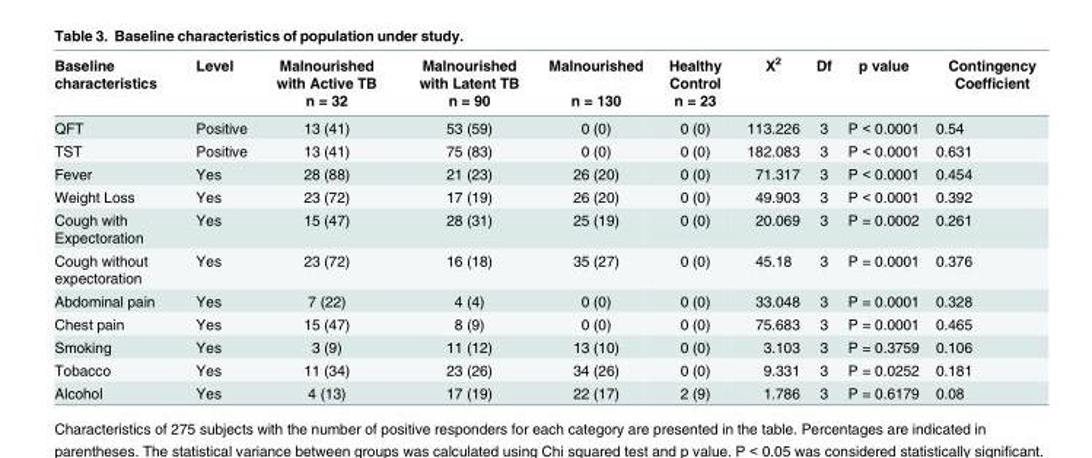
<table><thead><tr><td rowspan="2">Baseline characteristics</td><td rowspan="2">Level</td><td rowspan="2">Malnourished with Active TB n = 32</td><td rowspan="2">Malnourished with Latent TB n = 90</td><td rowspan="2">Malnourished n = 130</td><td rowspan="2">Healthy Control n = 23</td><td rowspan="2">Χ<sup>2</sup></td><td rowspan="2">Df</td><td rowspan="2">p value</td><td rowspan="2">Contingency Coefficient</td></tr><tr></tr></thead><tbody><tr><td>QFT</td><td>Positive</td><td>13 (41)</td><td>53 (59)</td><td>0 (0)</td><td>0 (0)</td><td>113.226</td><td>3</td><td>P &lt; 0.0001</td><td>0.54</td></tr><tr><td>TST</td><td>Positive</td><td>13 (41)</td><td>75 (83)</td><td>0 (0)</td><td>0 (0)</td><td>182.083</td><td>3</td><td>P &lt; 0.0001</td><td>0.631</td></tr><tr><td>Fever</td><td>Yes</td><td>28 (88)</td><td>21 (23)</td><td>26 (20)</td><td>0 (0)</td><td>71.317</td><td>3</td><td>P &lt; 0.0001</td><td>0.454</td></tr><tr><td>Weight Loss</td><td>Yes</td><td>23 (72)</td><td>17 (19)</td><td>26 (20)</td><td>0 (0)</td><td>49.903</td><td>3</td><td>P &lt; 0.0001</td><td>0.392</td></tr><tr><td>Cough with Expectoration</td><td>Yes</td><td>15 (47)</td><td>28 (31)</td><td>25 (19)</td><td>0 (0)</td><td>20.069</td><td>3</td><td>P = 0.0002</td><td>0.261</td></tr><tr><td>Cough without expectoration</td><td>Yes</td><td>23 (72)</td><td>16 (18)</td><td>35 (27)</td><td>0 (0)</td><td>45.18</td><td>3</td><td>P = 0.0001</td><td>0.376</td></tr><tr><td>Abdominal pain</td><td>Yes</td><td>7 (22)</td><td>4 (4)</td><td>0 (0)</td><td>0 (0)</td><td>33.048</td><td>3</td><td>P = 0.0001</td><td>0.328</td></tr><tr><td>Chest pain</td><td>Yes</td><td>15 (47)</td><td>8 (9)</td><td>0 (0)</td><td>0 (0)</td><td>75.683</td><td>3</td><td>P = 0.0001</td><td>0.465</td></tr><tr><td>Smoking</td><td>Yes</td><td>3 (9)</td><td>11 (12)</td><td>13 (10)</td><td>0 (0)</td><td>3.103</td><td>3</td><td>P = 0.3759</td><td>0.106</td></tr><tr><td>Tobacco</td><td>Yes</td><td>11 (34)</td><td>23 (26)</td><td>34 (26)</td><td>0 (0)</td><td>9.331</td><td>3</td><td>P = 0.0252</td><td>0.181</td></tr><tr><td>Alcohol</td><td>Yes</td><td>4 (13)</td><td>17 (19)</td><td>22 (17)</td><td>2 (9)</td><td>1.786</td><td>3</td><td>P = 0.6179</td><td>0.08</td></tr></tbody></table>